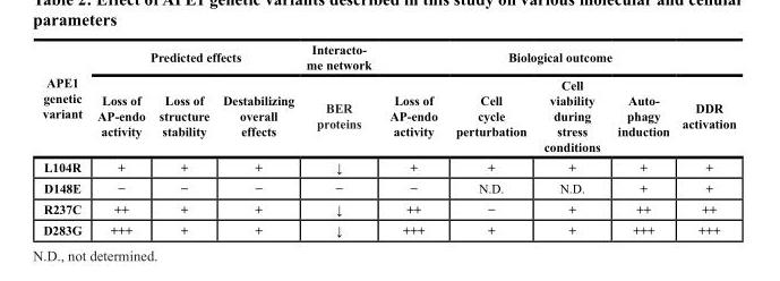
<table><thead><tr><td rowspan="2">APE1 genetic variant</td><td colspan="3">Predicted effects</td><td rowspan="2">Interacto- me network BER proteins</td><td colspan="5">Biological outcome</td></tr><tr><td>Loss of AP-endo activity</td><td>Loss of structure stability</td><td>Destabilizing overall effects</td><td>Loss of AP-endo activity</td><td>Cell cycle perturbation</td><td>Cell viability during stress conditions</td><td>Auto- phagy induction</td><td>DDR activation</td></tr></thead><tbody><tr><td>L104R</td><td>+</td><td>+</td><td>+</td><td>↓</td><td>+</td><td>+</td><td>+</td><td>+</td><td>+</td></tr><tr><td>D148E</td><td>−</td><td>−</td><td>−</td><td>−</td><td>−</td><td>N.D.</td><td>N.D.</td><td>+</td><td>+</td></tr><tr><td>R237C</td><td>++</td><td>+</td><td>+</td><td>↓</td><td>++</td><td>−</td><td>+</td><td>++</td><td>++</td></tr><tr><td>D283G</td><td>+++</td><td>+</td><td>+</td><td>↓</td><td>+++</td><td>+</td><td>+</td><td>+++</td><td>+++</td></tr></tbody></table>